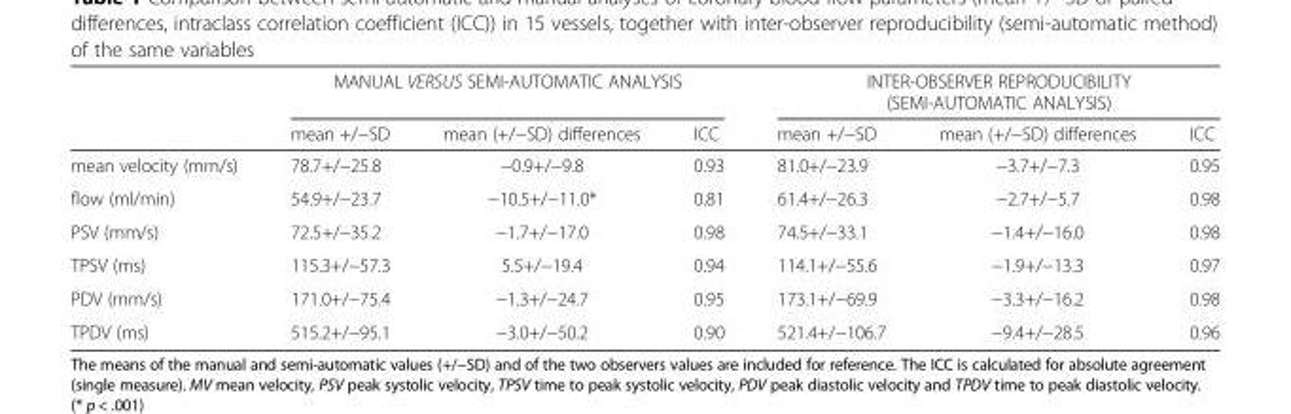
<table><thead><tr><td rowspan="2"></td><td colspan="3">MANUAL VERSUS SEMI-AUTOMATIC ANALYSIS</td><td colspan="3">INTER-OBSERVER REPRODUCIBILITY (SEMI-AUTOMATIC ANALYSIS)</td></tr><tr><td>mean +/−SD</td><td>mean (+/−SD) differences</td><td>ICC</td><td>mean +/−SD</td><td>mean (+/−SD) differences</td><td>ICC</td></tr></thead><tbody><tr><td>mean velocity (mm/s)</td><td>78.7+/−25.8</td><td>−0.9+/−9.8</td><td>0.93</td><td>81.0+/−23.9</td><td>−3.7+/−7.3</td><td>0.95</td></tr><tr><td>flow (ml/min)</td><td>54.9+/−23.7</td><td>−10.5+/−11.0*</td><td>0.81</td><td>61.4+/−26.3</td><td>−2.7+/−5.7</td><td>0.98</td></tr><tr><td>PSV (mm/s)</td><td>72.5+/−35.2</td><td>−1.7+/−17.0</td><td>0.98</td><td>74.5+/−33.1</td><td>−1.4+/−16.0</td><td>0.98</td></tr><tr><td>TPSV (ms)</td><td>115.3+/−57.3</td><td>5.5+/−19.4</td><td>0.94</td><td>114.1+/−55.6</td><td>−1.9+/−13.3</td><td>0.97</td></tr><tr><td>PDV (mm/s)</td><td>171.0+/−75.4</td><td>−1.3+/−24.7</td><td>0.95</td><td>173.1+/−69.9</td><td>−3.3+/−16.2</td><td>0.98</td></tr><tr><td>TPDV (ms)</td><td>515.2+/−95.1</td><td>−3.0+/−50.2</td><td>0.90</td><td>521.4+/−106.7</td><td>−9.4+/−28.5</td><td>0.96</td></tr></tbody></table>